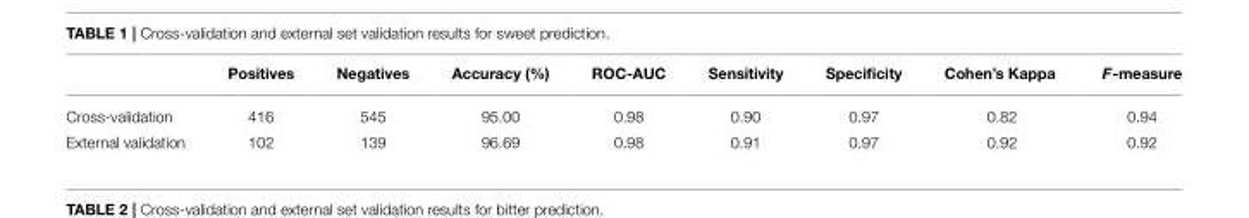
<table><thead><tr><td></td><td>Positives</td><td>Negatives</td><td>Accuracy (%)</td><td>ROC-AUC</td><td>Sensitivity</td><td>Specificity</td><td>Cohen’s Kappa</td><td>F-measure</td></tr></thead><tbody><tr><td>Cross-validation</td><td>416</td><td>545</td><td>95.00</td><td>0.98</td><td>0.90</td><td>0.97</td><td>0.82</td><td>0.94</td></tr><tr><td>External validation</td><td>102</td><td>139</td><td>96.69</td><td>0.98</td><td>0.91</td><td>0.97</td><td>0.92</td><td>0.92</td></tr></tbody></table>